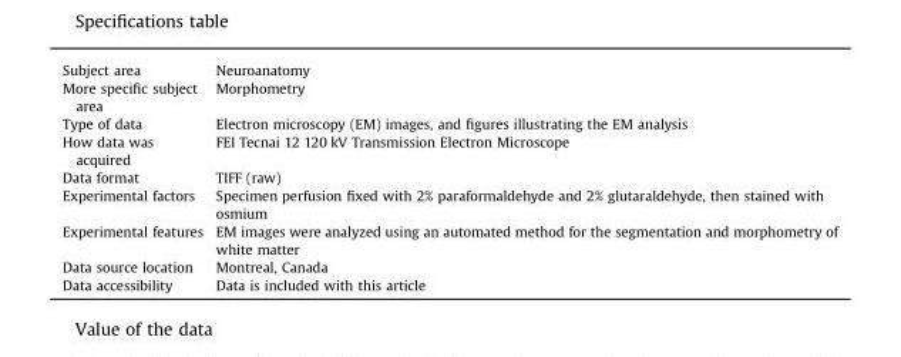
<table><tbody><tr><td>Subject area</td><td>Neuroanatomy</td></tr><tr><td>More specific subject area</td><td>Morphometry</td></tr><tr><td>Type of data</td><td>Electron microscopy (EM) images, and figures illustrating the EM analysis</td></tr><tr><td>How data was acquired</td><td>FEI Tecnai 12 120 kV Transmission Electron Microscope</td></tr><tr><td>Data format</td><td>TIFF (raw)</td></tr><tr><td>Experimental factors</td><td>Specimen perfusion fixed with 2% paraformaldehyde and 2% glutaraldehyde, then stained with osmium</td></tr><tr><td>Experimental features</td><td>EM images were analyzed using an automated method for the segmentation and morphometry of white matter</td></tr><tr><td>Data source location</td><td>Montreal, Canada</td></tr><tr><td>Data accessibility</td><td>Data is included with this article</td></tr></tbody></table>